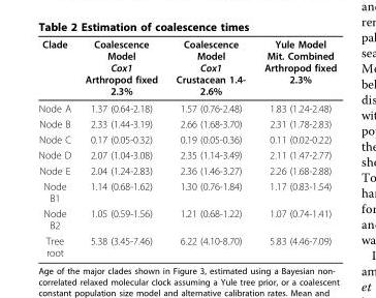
<table><thead><tr><td>Clade</td><td>Coalescence Model Cox1 Arthropod fixed 2.3%</td><td>Coalescence Model Cox1 Crustacean 1.4- 2.6%</td><td>Yule Model Mit. Combined Arthropod fixed 2.3%</td></tr></thead><tbody><tr><td>Node A</td><td>1.37 (0.64-2.18)</td><td>1.57 (0.76-2.48)</td><td>1.83 (1.24-2.48)</td></tr><tr><td>Node B</td><td>2.33 (1.44-3.19)</td><td>2.66 (1.68-3.70)</td><td>2.31 (1.78-2.83)</td></tr><tr><td>Node C</td><td>0.17 (0.05-0.32)</td><td>0.19 (0.05-0.36)</td><td>0.11 (0.02-0.22)</td></tr><tr><td>Node D</td><td>2.07 (1.04-3.08)</td><td>2.35 (1.14-3.49)</td><td>2.11 (1.47-2.77)</td></tr><tr><td>Node E</td><td>2.04 (1.24-2.83)</td><td>2.36 (1.46-3.27)</td><td>2.26 (1.68-2.88)</td></tr><tr><td>Node B1</td><td>1.14 (0.68-1.62)</td><td>1.30 (0.76-1.84)</td><td>1.17 (0.83-1.54)</td></tr><tr><td>Node B2</td><td>1.05 (0.59-1.56)</td><td>1.21 (0.68-1.22)</td><td>1.07 (0.74-1.41)</td></tr><tr><td>Tree root</td><td>5.38 (3.45-7.46)</td><td>6.22 (4.10-8.70)</td><td>5.83 (4.46-7.09)</td></tr></tbody></table>